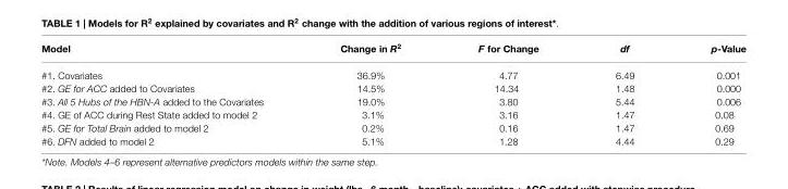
<table><thead><tr><td>Model</td><td>Change in R<sup>2</sup></td><td>F for Change</td><td>df</td><td>p-Value</td></tr></thead><tbody><tr><td>#1. Covariates</td><td>36.9%</td><td>4.77</td><td>6.49</td><td>0.001</td></tr><tr><td>#2. GE for ACC added to Covariates</td><td>14.5%</td><td>14.34</td><td>1.48</td><td>0.000</td></tr><tr><td>#3. All 5 Hubs of the HBN-A added to the Covariates</td><td>19.0%</td><td>3.80</td><td>5.44</td><td>0.006</td></tr><tr><td>#4. GE of ACC during Rest State added to model 2</td><td>3.1%</td><td>3.16</td><td>1.47</td><td>0.08</td></tr><tr><td>#5. GE for Total Brain added to model 2</td><td>0.2%</td><td>0.16</td><td>1.47</td><td>0.69</td></tr><tr><td>#6. DFN added to model 2</td><td>5.1%</td><td>1.28</td><td>4.44</td><td>0.29</td></tr></tbody></table>